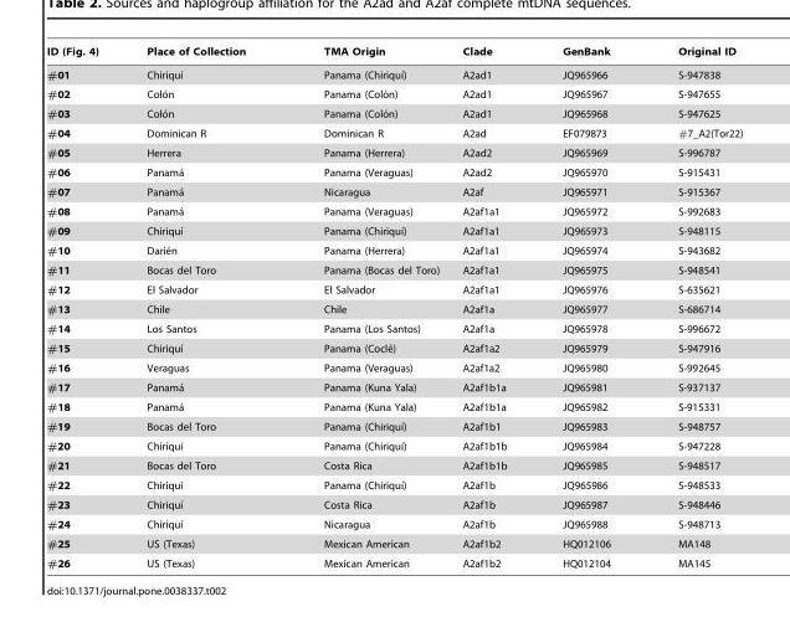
<table><thead><tr><td>ID (Fig. 4)</td><td>Place of Collection</td><td>TMA Origin</td><td>Clade</td><td>GenBank</td><td>Original ID</td></tr></thead><tbody><tr><td>#01</td><td>Chiriquı´</td><td>Panama (Chiriquı´)</td><td>A2ad1</td><td>JQ965966</td><td>S-947838</td></tr><tr><td>#02</td><td>Colo´n</td><td>Panama (Colo´n)</td><td>A2ad1</td><td>JQ965967</td><td>S-947655</td></tr><tr><td>#03</td><td>Colo´n</td><td>Panama (Colo´n)</td><td>A2ad1</td><td>JQ965968</td><td>S-947625</td></tr><tr><td>#04</td><td>Dominican R</td><td>Dominican R</td><td>A2ad</td><td>EF079873</td><td>#7_A2(Tor22)</td></tr><tr><td>#05</td><td>Herrera</td><td>Panama (Herrera)</td><td>A2ad2</td><td>JQ965969</td><td>S-996787</td></tr><tr><td>#06</td><td>Panama´</td><td>Panama (Veraguas)</td><td>A2ad2</td><td>JQ965970</td><td>S-915431</td></tr><tr><td>#07</td><td>Panama´</td><td>Nicaragua</td><td>A2af</td><td>JQ965971</td><td>S-915367</td></tr><tr><td>#08</td><td>Panama´</td><td>Panama (Veraguas)</td><td>A2af1a1</td><td>JQ965972</td><td>S-992683</td></tr><tr><td>#09</td><td>Chiriquı´</td><td>Panama (Chiriquı´)</td><td>A2af1a1</td><td>JQ965973</td><td>S-948115</td></tr><tr><td>#10</td><td>Darie´n</td><td>Panama (Herrera)</td><td>A2af1a1</td><td>JQ965974</td><td>S-943682</td></tr><tr><td>#11</td><td>Bocas del Toro</td><td>Panama (Bocas del Toro)</td><td>A2af1a1</td><td>JQ965975</td><td>S-948541</td></tr><tr><td>#12</td><td>El Salvador</td><td>El Salvador</td><td>A2af1a1</td><td>JQ965976</td><td>S-635621</td></tr><tr><td>#13</td><td>Chile</td><td>Chile</td><td>A2af1a</td><td>JQ965977</td><td>S-686714</td></tr><tr><td>#14</td><td>Los Santos</td><td>Panama (Los Santos)</td><td>A2af1a</td><td>JQ965978</td><td>S-996672</td></tr><tr><td>#15</td><td>Chiriquı´</td><td>Panama (Cocle´)</td><td>A2af1a2</td><td>JQ965979</td><td>S-947916</td></tr><tr><td>#16</td><td>Veraguas</td><td>Panama (Veraguas)</td><td>A2af1a2</td><td>JQ965980</td><td>S-992645</td></tr><tr><td>#17</td><td>Panama´</td><td>Panama (Kuna Yala)</td><td>A2af1b1a</td><td>JQ965981</td><td>S-937137</td></tr><tr><td>#18</td><td>Panama´</td><td>Panama (Kuna Yala)</td><td>A2af1b1a</td><td>JQ965982</td><td>S-915331</td></tr><tr><td>#19</td><td>Bocas del Toro</td><td>Panama (Chiriquı´)</td><td>A2af1b1</td><td>JQ965983</td><td>S-948757</td></tr><tr><td>#20</td><td>Chiriquı´</td><td>Panama (Chiriquı´)</td><td>A2af1b1b</td><td>JQ965984</td><td>S-947228</td></tr><tr><td>#21</td><td>Bocas del Toro</td><td>Costa Rica</td><td>A2af1b1b</td><td>JQ965985</td><td>S-948517</td></tr><tr><td>#22</td><td>Chiriquı´</td><td>Panama (Chiriquı´)</td><td>A2af1b</td><td>JQ965986</td><td>S-948533</td></tr><tr><td>#23</td><td>Chiriquı´</td><td>Costa Rica</td><td>A2af1b</td><td>JQ965987</td><td>S-948446</td></tr><tr><td>#24</td><td>Chiriquı´</td><td>Nicaragua</td><td>A2af1b</td><td>JQ965988</td><td>S-948713</td></tr><tr><td>#25</td><td>US (Texas)</td><td>Mexican American</td><td>A2af1b2</td><td>HQ012106</td><td>MA148</td></tr><tr><td>#26</td><td>US (Texas)</td><td>Mexican American</td><td>A2af1b2</td><td>HQ012104</td><td>MA145</td></tr></tbody></table>